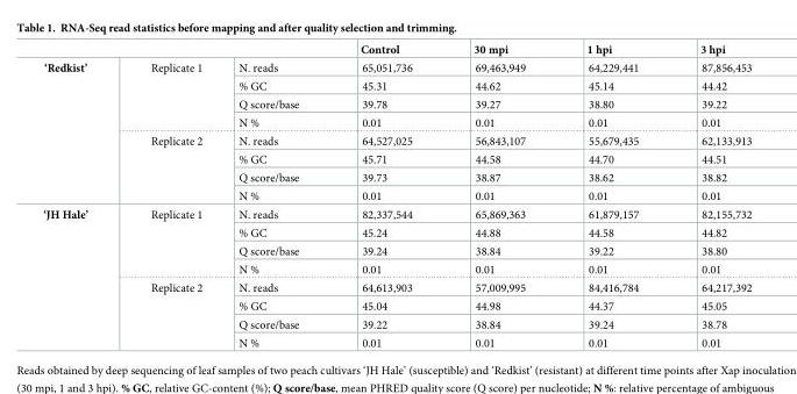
<table><thead><tr><td></td><td></td><td></td><td>Control</td><td>30 mpi</td><td>1 hpi</td><td>3 hpi</td></tr></thead><tbody><tr><td rowspan="8">‘Redkist’</td><td rowspan="4">Replicate 1</td><td>N. reads</td><td>65,051,736</td><td>69,463,949</td><td>64,229,441</td><td>87,856,453</td></tr><tr><td>% GC</td><td>45.31</td><td>44.62</td><td>45.14</td><td>44.42</td></tr><tr><td>Q score/base</td><td>39.78</td><td>39.27</td><td>38.80</td><td>39.22</td></tr><tr><td>N %</td><td>0.01</td><td>0.01</td><td>0.01</td><td>0.01</td></tr><tr><td rowspan="4">Replicate 2</td><td>N. reads</td><td>64,527,025</td><td>56,843,107</td><td>55,679,435</td><td>62,133,913</td></tr><tr><td>% GC</td><td>45.71</td><td>44.58</td><td>44.70</td><td>44.51</td></tr><tr><td>Q score/base</td><td>39.73</td><td>38.87</td><td>38.62</td><td>38.82</td></tr><tr><td>N %</td><td>0.01</td><td>0.01</td><td>0.01</td><td>0.01</td></tr><tr><td rowspan="8">‘JH Hale’</td><td rowspan="4">Replicate 1</td><td>N. reads</td><td>82,337,544</td><td>65,869,363</td><td>61,879,157</td><td>82,155,732</td></tr><tr><td>% GC</td><td>45.24</td><td>44.88</td><td>44.58</td><td>44.82</td></tr><tr><td>Q score/base</td><td>39.24</td><td>38.84</td><td>39.22</td><td>38.80</td></tr><tr><td>N %</td><td>0.01</td><td>0.01</td><td>0.01</td><td>0.01</td></tr><tr><td rowspan="4">Replicate 2</td><td>N. reads</td><td>64,613,903</td><td>57,009,995</td><td>84,416,784</td><td>64,217,392</td></tr><tr><td>% GC</td><td>45.04</td><td>44.98</td><td>44.37</td><td>45.05</td></tr><tr><td>Q score/base</td><td>39.22</td><td>38.84</td><td>39.24</td><td>38.78</td></tr><tr><td>N %</td><td>0.01</td><td>0.01</td><td>0.01</td><td>0.01</td></tr></tbody></table>